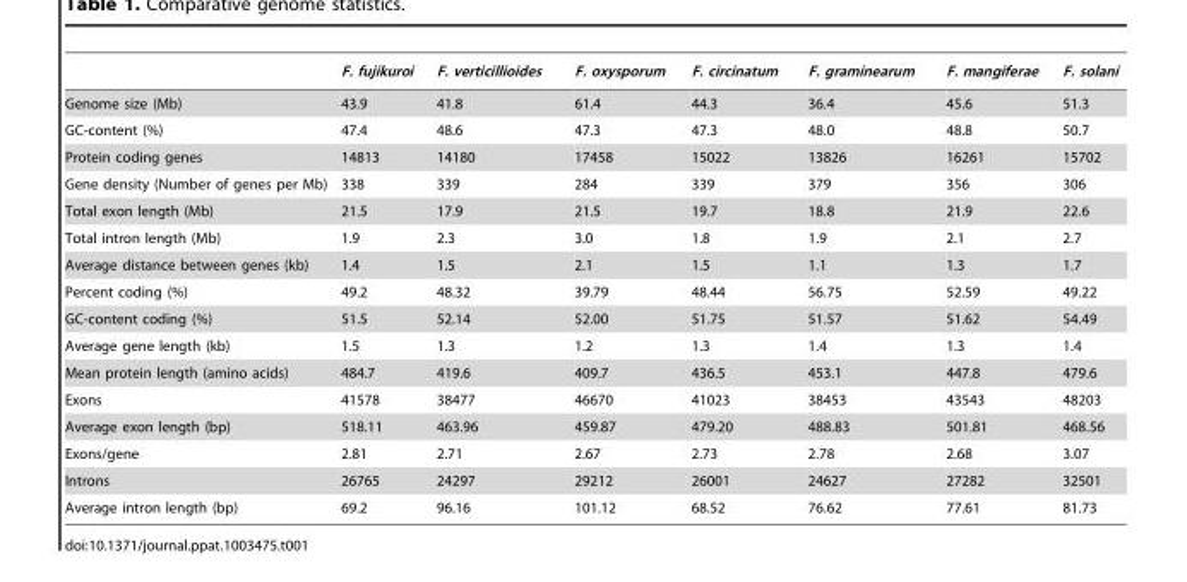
<table><thead><tr><td></td><td>F. fujikuroi</td><td>F. verticillioides</td><td>F. oxysporum</td><td>F. circinatum</td><td>F. graminearum</td><td>F. mangiferae</td><td>F. solani</td></tr></thead><tbody><tr><td>Genome size (Mb)</td><td>43.9</td><td>41.8</td><td>61.4</td><td>44.3</td><td>36.4</td><td>45.6</td><td>51.3</td></tr><tr><td>GC-content (%)</td><td>47.4</td><td>48.6</td><td>47.3</td><td>47.3</td><td>48.0</td><td>48.8</td><td>50.7</td></tr><tr><td>Protein coding genes</td><td>14813</td><td>14180</td><td>17458</td><td>15022</td><td>13826</td><td>16261</td><td>15702</td></tr><tr><td>Gene density (Number of genes per Mb)</td><td>338</td><td>339</td><td>284</td><td>339</td><td>379</td><td>356</td><td>306</td></tr><tr><td>Total exon length (Mb)</td><td>21.5</td><td>17.9</td><td>21.5</td><td>19.7</td><td>18.8</td><td>21.9</td><td>22.6</td></tr><tr><td>Total intron length (Mb)</td><td>1.9</td><td>2.3</td><td>3.0</td><td>1.8</td><td>1.9</td><td>2.1</td><td>2.7</td></tr><tr><td>Average distance between genes (kb)</td><td>1.4</td><td>1.5</td><td>2.1</td><td>1.5</td><td>1.1</td><td>1.3</td><td>1.7</td></tr><tr><td>Percent coding (%)</td><td>49.2</td><td>48.32</td><td>39.79</td><td>48.44</td><td>56.75</td><td>52.59</td><td>49.22</td></tr><tr><td>GC-content coding (%)</td><td>51.5</td><td>52.14</td><td>52.00</td><td>51.75</td><td>51.57</td><td>51.62</td><td>54.49</td></tr><tr><td>Average gene length (kb)</td><td>1.5</td><td>1.3</td><td>1.2</td><td>1.3</td><td>1.4</td><td>1.3</td><td>1.4</td></tr><tr><td>Mean protein length (amino acids)</td><td>484.7</td><td>419.6</td><td>409.7</td><td>436.5</td><td>453.1</td><td>447.8</td><td>479.6</td></tr><tr><td>Exons</td><td>41578</td><td>38477</td><td>46670</td><td>41023</td><td>38453</td><td>43543</td><td>48203</td></tr><tr><td>Average exon length (bp)</td><td>518.11</td><td>463.96</td><td>459.87</td><td>479.20</td><td>488.83</td><td>501.81</td><td>468.56</td></tr><tr><td>Exons/gene</td><td>2.81</td><td>2.71</td><td>2.67</td><td>2.73</td><td>2.78</td><td>2.68</td><td>3.07</td></tr><tr><td>Introns</td><td>26765</td><td>24297</td><td>29212</td><td>26001</td><td>24627</td><td>27282</td><td>32501</td></tr><tr><td>Average intron length (bp)</td><td>69.2</td><td>96.16</td><td>101.12</td><td>68.52</td><td>76.62</td><td>77.61</td><td>81.73</td></tr></tbody></table>